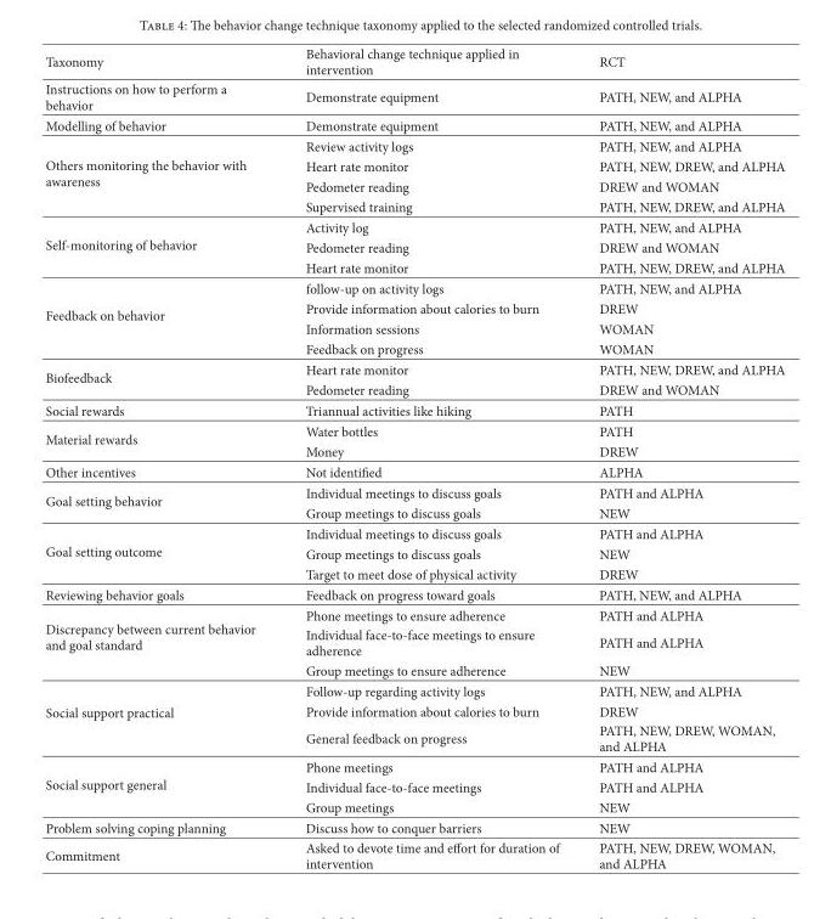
<table><thead><tr><td>Taxonomy</td><td>Behavioral change technique applied in intervention</td><td>RCT</td></tr></thead><tbody><tr><td>Instructions on how to perform a behavior</td><td>Demonstrate equipment</td><td>PATH, NEW, and ALPHA</td></tr><tr><td>Modelling of behavior</td><td>Demonstrate equipment</td><td>PATH, NEW, and ALPHA</td></tr><tr><td rowspan="4">Others monitoring the behavior with awareness</td><td>Review activity logs</td><td>PATH, NEW, and ALPHA</td></tr><tr><td>Heart rate monitor</td><td>PATH, NEW, DREW, and ALPHA</td></tr><tr><td>Pedometer reading</td><td>DREW and WOMAN</td></tr><tr><td>Supervised training</td><td>PATH, NEW, DREW, and ALPHA</td></tr><tr><td rowspan="3">Self-monitoring of behavior</td><td>Activity log</td><td>PATH, NEW, and ALPHA</td></tr><tr><td>Pedometer reading</td><td>DREW and WOMAN</td></tr><tr><td>Heart rate monitor</td><td>PATH, NEW, DREW, and ALPHA</td></tr><tr><td rowspan="4">Feedback on behavior</td><td>follow-up on activity logs</td><td>PATH, NEW, and ALPHA</td></tr><tr><td>Provide information about calories to burn</td><td>DREW</td></tr><tr><td>Information sessions</td><td>WOMAN</td></tr><tr><td>Feedback on progress</td><td>WOMAN</td></tr><tr><td rowspan="2">Biofeedback</td><td>Heart rate monitor</td><td>PATH, NEW, DREW, and ALPHA</td></tr><tr><td>Pedometer reading</td><td>DREW and WOMAN</td></tr><tr><td>Social rewards</td><td>Triannual activities like hiking</td><td>PATH</td></tr><tr><td rowspan="2">Material rewards</td><td>Water bottles</td><td>PATH</td></tr><tr><td>Money</td><td>DREW</td></tr><tr><td>Other incentives</td><td>Not identified</td><td>ALPHA</td></tr><tr><td rowspan="2">Goal setting behavior</td><td>Individual meetings to discuss goals</td><td>PATH and ALPHA</td></tr><tr><td>Group meetings to discuss goals</td><td>NEW</td></tr><tr><td rowspan="3">Goal setting outcome</td><td>Individual meetings to discuss goals</td><td>PATH and ALPHA</td></tr><tr><td>Group meetings to discuss goals</td><td>NEW</td></tr><tr><td>Target to meet dose of physical activity</td><td>DREW</td></tr><tr><td>Reviewing behavior goals</td><td>Feedback on progress toward goals</td><td>PATH, NEW, and ALPHA</td></tr><tr><td rowspan="3">Discrepancy between current behavior and goal standard</td><td>Phone meetings to ensure adherence</td><td>PATH and ALPHA</td></tr><tr><td>Individual face-to-face meetings to ensure adherence</td><td>PATH and ALPHA</td></tr><tr><td>Group meetings to ensure adherence</td><td>NEW</td></tr><tr><td rowspan="3">Social support practical</td><td>Follow-up regarding activity logs</td><td>PATH, NEW, and ALPHA</td></tr><tr><td>Provide information about calories to burn</td><td>DREW</td></tr><tr><td>General feedback on progress</td><td>PATH, NEW, DREW, WOMAN, and ALPHA</td></tr><tr><td rowspan="3">Social support general</td><td>Phone meetings</td><td>PATH and ALPHA</td></tr><tr><td>Individual face-to-face meetings</td><td>PATH and ALPHA</td></tr><tr><td>Group meetings</td><td>NEW</td></tr><tr><td>Problem solving coping planning</td><td>Discuss how to conquer barriers</td><td>NEW</td></tr><tr><td>Commitment</td><td>Asked to devote time and effort for duration of intervention</td><td>PATH, NEW, DREW, WOMAN, and ALPHA</td></tr></tbody></table>